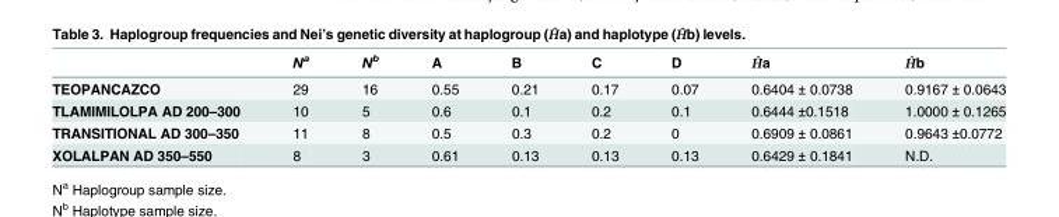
<table><thead><tr><td></td><td>N<sup>a</sup></td><td>N<sup>b</sup></td><td>A</td><td>B</td><td>C</td><td>D</td><td>Ĥa</td><td>Ĥb</td></tr></thead><tbody><tr><td>TEOPANCAZCO</td><td>29</td><td>16</td><td>0.55</td><td>0.21</td><td>0.17</td><td>0.07</td><td>0.6404 ± 0.0738</td><td>0.9167 ± 0.0643</td></tr><tr><td>TLAMIMILOLPA AD 200–300</td><td>10</td><td>5</td><td>0.6</td><td>0.1</td><td>0.2</td><td>0.1</td><td>0.6444 ±0.1518</td><td>1.0000 ± 0.1265</td></tr><tr><td>TRANSITIONAL AD 300–350</td><td>11</td><td>8</td><td>0.5</td><td>0.3</td><td>0.2</td><td>0</td><td>0.6909 ± 0.0861</td><td>0.9643 ±0.0772</td></tr><tr><td>XOLALPAN AD 350–550</td><td>8</td><td>3</td><td>0.61</td><td>0.13</td><td>0.13</td><td>0.13</td><td>0.6429 ± 0.1841</td><td>N.D.</td></tr></tbody></table>